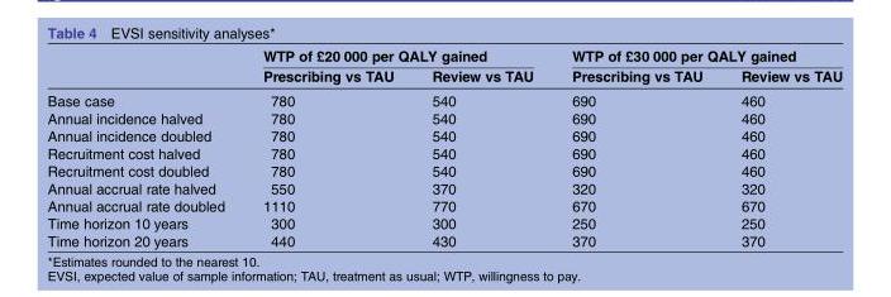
<table><thead><tr><td rowspan="2"></td><td colspan="2">WTP of £20 000 per QALY gained</td><td colspan="2">WTP of £30 000 per QALY gained</td></tr><tr><td>Prescribing vs TAU</td><td>Review vs TAU</td><td>Prescribing vs TAU</td><td>Review vs TAU</td></tr></thead><tbody><tr><td>Base case</td><td>780</td><td>540</td><td>690</td><td>460</td></tr><tr><td>Annual incidence halved</td><td>780</td><td>540</td><td>690</td><td>460</td></tr><tr><td>Annual incidence doubled</td><td>780</td><td>540</td><td>690</td><td>460</td></tr><tr><td>Recruitment cost halved</td><td>780</td><td>540</td><td>690</td><td>460</td></tr><tr><td>Recruitment cost doubled</td><td>780</td><td>540</td><td>690</td><td>460</td></tr><tr><td>Annual accrual rate halved</td><td>550</td><td>370</td><td>320</td><td>320</td></tr><tr><td>Annual accrual rate doubled</td><td>1110</td><td>770</td><td>670</td><td>670</td></tr><tr><td>Time horizon 10 years</td><td>300</td><td>300</td><td>250</td><td>250</td></tr><tr><td>Time horizon 20 years</td><td>440</td><td>430</td><td>370</td><td>370</td></tr></tbody></table>